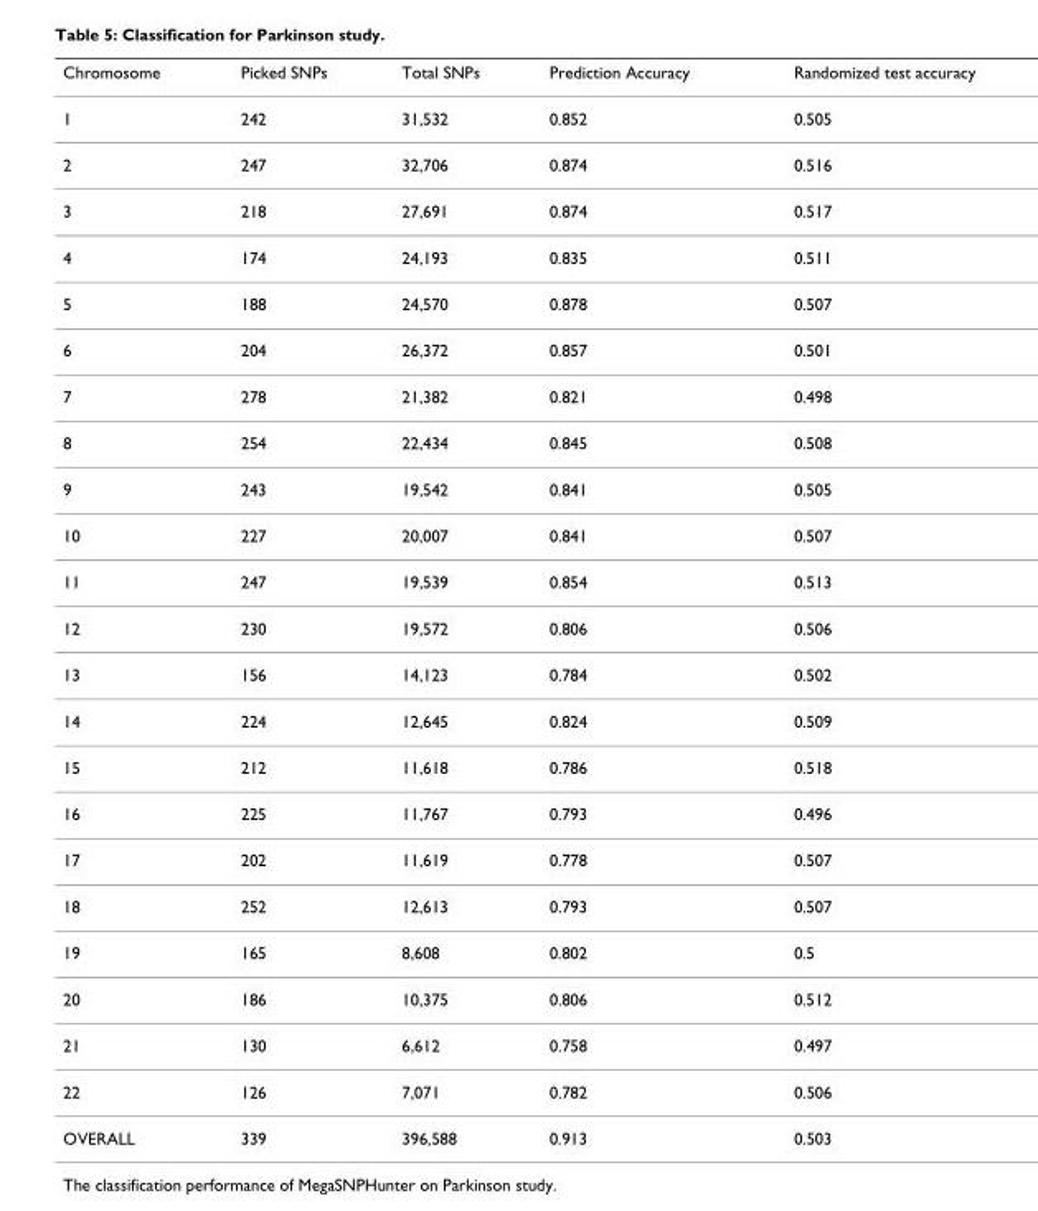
<table><thead><tr><td>Chromosome</td><td>Picked SNPs</td><td>Total SNPs</td><td>Prediction Accuracy</td><td>Randomized test accuracy</td></tr></thead><tbody><tr><td>1</td><td>242</td><td>31,532</td><td>0.852</td><td>0.505</td></tr><tr><td>2</td><td>247</td><td>32,706</td><td>0.874</td><td>0.516</td></tr><tr><td>3</td><td>218</td><td>27,691</td><td>0.874</td><td>0.517</td></tr><tr><td>4</td><td>174</td><td>24,193</td><td>0.835</td><td>0.511</td></tr><tr><td>5</td><td>188</td><td>24,570</td><td>0.878</td><td>0.507</td></tr><tr><td>6</td><td>204</td><td>26,372</td><td>0.857</td><td>0.501</td></tr><tr><td>7</td><td>278</td><td>21,382</td><td>0.821</td><td>0.498</td></tr><tr><td>8</td><td>254</td><td>22,434</td><td>0.845</td><td>0.508</td></tr><tr><td>9</td><td>243</td><td>19,542</td><td>0.841</td><td>0.505</td></tr><tr><td>10</td><td>227</td><td>20,007</td><td>0.841</td><td>0.507</td></tr><tr><td>11</td><td>247</td><td>19,539</td><td>0.854</td><td>0.513</td></tr><tr><td>12</td><td>230</td><td>19,572</td><td>0.806</td><td>0.506</td></tr><tr><td>13</td><td>156</td><td>14,123</td><td>0.784</td><td>0.502</td></tr><tr><td>14</td><td>224</td><td>12,645</td><td>0.824</td><td>0.509</td></tr><tr><td>15</td><td>212</td><td>11,618</td><td>0.786</td><td>0.518</td></tr><tr><td>16</td><td>225</td><td>11,767</td><td>0.793</td><td>0.496</td></tr><tr><td>17</td><td>202</td><td>11,619</td><td>0.778</td><td>0.507</td></tr><tr><td>18</td><td>252</td><td>12,613</td><td>0.793</td><td>0.507</td></tr><tr><td>19</td><td>165</td><td>8,608</td><td>0.802</td><td>0.5</td></tr><tr><td>20</td><td>186</td><td>10,375</td><td>0.806</td><td>0.512</td></tr><tr><td>21</td><td>130</td><td>6,612</td><td>0.758</td><td>0.497</td></tr><tr><td>22</td><td>126</td><td>7,071</td><td>0.782</td><td>0.506</td></tr><tr><td>OVERALL</td><td>339</td><td>396,588</td><td>0.913</td><td>0.503</td></tr></tbody></table>